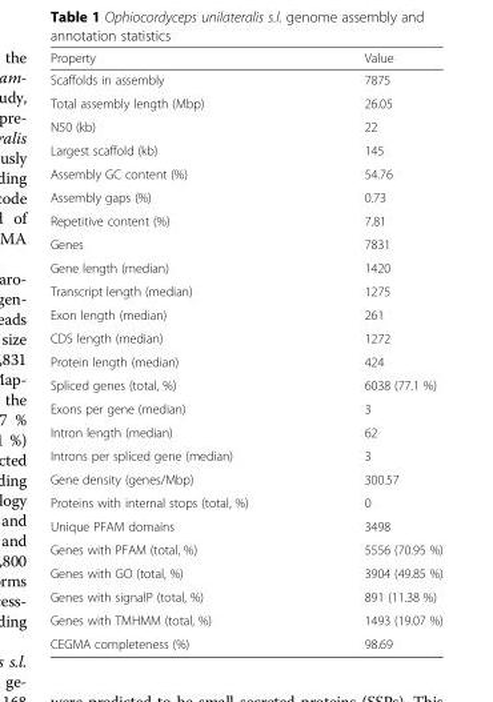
<table><thead><tr><td>Property</td><td>Value</td></tr></thead><tbody><tr><td>Scaffolds in assembly</td><td>7875</td></tr><tr><td>Total assembly length (Mbp)</td><td>26.05</td></tr><tr><td>N50 (kb)</td><td>22</td></tr><tr><td>Largest scaffold (kb)</td><td>145</td></tr><tr><td>Assembly GC content (%)</td><td>54.76</td></tr><tr><td>Assembly gaps (%)</td><td>0.73</td></tr><tr><td>Repetitive content (%)</td><td>7.81</td></tr><tr><td>Genes</td><td>7831</td></tr><tr><td>Gene length (median)</td><td>1420</td></tr><tr><td>Transcript length (median)</td><td>1275</td></tr><tr><td>Exon length (median)</td><td>261</td></tr><tr><td>CDS length (median)</td><td>1272</td></tr><tr><td>Protein length (median)</td><td>424</td></tr><tr><td>Spliced genes (total, %)</td><td>6038 (77.1 %)</td></tr><tr><td>Exons per gene (median)</td><td>3</td></tr><tr><td>Intron length (median)</td><td>62</td></tr><tr><td>Introns per spliced gene (median)</td><td>3</td></tr><tr><td>Gene density (genes/Mbp)</td><td>300.57</td></tr><tr><td>Proteins with internal stops (total, %)</td><td>0</td></tr><tr><td>Unique PFAM domains</td><td>3498</td></tr><tr><td>Genes with PFAM (total, %)</td><td>5556 (70.95 %)</td></tr><tr><td>Genes with GO (total, %)</td><td>3904 (49.85 %)</td></tr><tr><td>Genes with signalP (total, %)</td><td>891 (11.38 %)</td></tr><tr><td>Genes with TMHMM (total, %)</td><td>1493 (19.07 %)</td></tr><tr><td>CEGMA completeness (%)</td><td>98.69</td></tr></tbody></table>